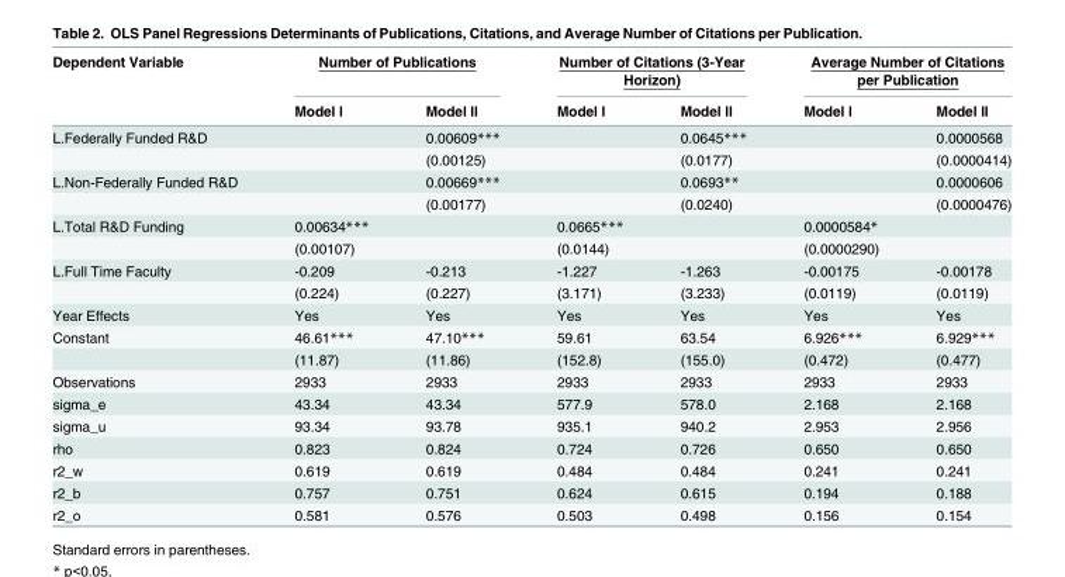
<table><thead><tr><td rowspan="2">Dependent Variable</td><td colspan="2">Number of Publications</td><td colspan="2">Number of Citations (3-Year Horizon)</td><td colspan="2">Average Number of Citations per Publication</td></tr><tr><td>Model l</td><td>Model ll</td><td>Model l</td><td>Model ll</td><td>Model l</td><td>Model ll</td></tr></thead><tbody><tr><td rowspan="2">L.Federally Funded R&amp;D</td><td></td><td>0.00609***</td><td></td><td>0.0645***</td><td></td><td>0.0000568</td></tr><tr><td></td><td>(0.00125)</td><td></td><td>(0.0177)</td><td></td><td>(0.0000414)</td></tr><tr><td rowspan="2">L.Non-Federally Funded R&amp;D</td><td></td><td>0.00669***</td><td></td><td>0.0693**</td><td></td><td>0.0000606</td></tr><tr><td></td><td>(0.00177)</td><td></td><td>(0.0240)</td><td></td><td>(0.0000476)</td></tr><tr><td rowspan="2">L.Total R&amp;D Funding</td><td>0.00634***</td><td></td><td>0.0665***</td><td></td><td>0.0000584*</td><td></td></tr><tr><td>(0.00107)</td><td></td><td>(0.0144)</td><td></td><td>(0.0000290)</td><td></td></tr><tr><td rowspan="2">L.Full Time Faculty</td><td>-0.209</td><td>-0.213</td><td>-1.227</td><td>-1.263</td><td>-0.00175</td><td>-0.00178</td></tr><tr><td>(0.224)</td><td>(0.227)</td><td>(3.171)</td><td>(3.233)</td><td>(0.0119)</td><td>(0.0119)</td></tr><tr><td>Year Effects</td><td>Yes</td><td>Yes</td><td>Yes</td><td>Yes</td><td>Yes</td><td>Yes</td></tr><tr><td rowspan="2">Constant</td><td>46.61***</td><td>47.10***</td><td>59.61</td><td>63.54</td><td>6.926***</td><td>6.929***</td></tr><tr><td>(11.87)</td><td>(11.86)</td><td>(152.8)</td><td>(155.0)</td><td>(0.472)</td><td>(0.477)</td></tr><tr><td>Observations</td><td>2933</td><td>2933</td><td>2933</td><td>2933</td><td>2933</td><td>2933</td></tr><tr><td>sigma_e</td><td>43.34</td><td>43.34</td><td>577.9</td><td>578.0</td><td>2.168</td><td>2.168</td></tr><tr><td>sigma_u</td><td>93.34</td><td>93.78</td><td>935.1</td><td>940.2</td><td>2.953</td><td>2.956</td></tr><tr><td>rho</td><td>0.823</td><td>0.824</td><td>0.724</td><td>0.726</td><td>0.650</td><td>0.650</td></tr><tr><td>r2_w</td><td>0.619</td><td>0.619</td><td>0.484</td><td>0.484</td><td>0.241</td><td>0.241</td></tr><tr><td>r2_b</td><td>0.757</td><td>0.751</td><td>0.624</td><td>0.615</td><td>0.194</td><td>0.188</td></tr><tr><td>r2_o</td><td>0.581</td><td>0.576</td><td>0.503</td><td>0.498</td><td>0.156</td><td>0.154</td></tr></tbody></table>